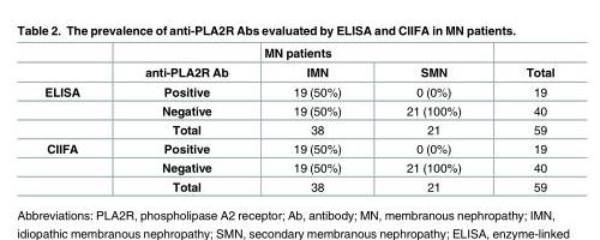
<table><thead><tr><td rowspan="2"></td><td rowspan="2">anti-PLA2R Ab</td><td colspan="2">MN patients</td><td rowspan="2">Total</td></tr><tr><td>IMN</td><td>SMN</td></tr></thead><tbody><tr><td rowspan="3">ELISA</td><td>Positive</td><td>19 (50%)</td><td>0 (0%)</td><td>19</td></tr><tr><td>Negative</td><td>19 (50%)</td><td>21 (100%)</td><td>40</td></tr><tr><td>Total</td><td>38</td><td>21</td><td>59</td></tr><tr><td rowspan="3">CIIFA</td><td>Positive</td><td>19 (50%)</td><td>0 (0%)</td><td>19</td></tr><tr><td>Negative</td><td>19 (50%)</td><td>21 (100%)</td><td>40</td></tr><tr><td>Total</td><td>38</td><td>21</td><td>59</td></tr></tbody></table>